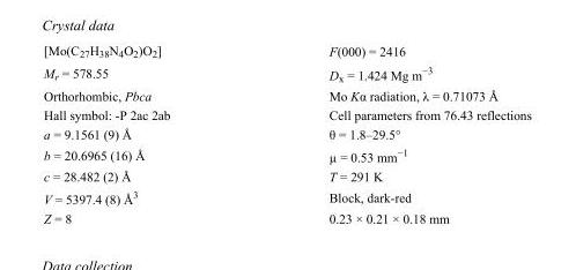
<table><tbody><tr><td>[Mo(C<sub>27</sub>H<sub>38</sub>N<sub>4</sub>O<sub>2</sub>)O<sub>2</sub>]</td><td>F(000) = 2416</td></tr><tr><td>M<sub>r</sub> = 578.55</td><td>D<sub>x</sub> = 1.424 Mg m<sup>−3</sup></td></tr><tr><td>Orthorhombic, Pbca</td><td>Mo Kα radiation, λ = 0.71073 Å</td></tr><tr><td>Hall symbol: -P 2ac 2ab</td><td>Cell parameters from 76.43 reflections</td></tr><tr><td>a = 9.1561 (9) Å</td><td>θ = 1.8–29.5°</td></tr><tr><td>b = 20.6965 (16) Å</td><td>µ = 0.53 mm<sup>−1</sup></td></tr><tr><td>c = 28.482 (2) Å</td><td>T = 291 K</td></tr><tr><td>V = 5397.4 (8) Å<sup>3</sup></td><td>Block, dark-red</td></tr><tr><td>Z = 8</td><td>0.23 × 0.21 × 0.18 mm</td></tr></tbody></table>